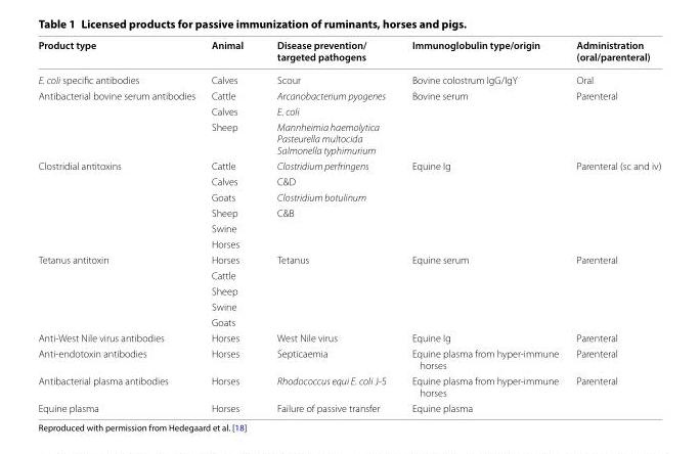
<table><thead><tr><td>Product type</td><td>Animal</td><td>Disease prevention/ targeted pathogens</td><td>Immunoglobulin type/origin</td><td>Administration (oral/parenteral)</td></tr></thead><tbody><tr><td>E. coli specific antibodies</td><td>Calves</td><td>Scour</td><td>Bovine colostrum IgG/IgY</td><td>Oral</td></tr><tr><td rowspan="3">Antibacterial bovine serum antibodies</td><td>Cattle</td><td>Arcanobacterium pyogenes</td><td>Bovine serum</td><td>Parenteral</td></tr><tr><td>Calves</td><td>E. coli</td><td></td><td></td></tr><tr><td>Sheep</td><td>Mannheimia haemolytica Pasteurella multocida Salmonella typhimurium</td><td></td><td></td></tr><tr><td rowspan="6">Clostridial antitoxins</td><td>Cattle</td><td>Clostridium perfringens</td><td>Equine Ig</td><td>Parenteral (sc and iv)</td></tr><tr><td>Calves</td><td>C&amp;D</td><td></td><td></td></tr><tr><td>Goats</td><td>Clostridium botulinum</td><td></td><td></td></tr><tr><td>Sheep</td><td>C&amp;B</td><td></td><td></td></tr><tr><td>Swine</td><td></td><td></td><td></td></tr><tr><td>Horses</td><td></td><td></td><td></td></tr><tr><td rowspan="5">Tetanus antitoxin</td><td>Horses</td><td>Tetanus</td><td>Equine serum</td><td>Parenteral</td></tr><tr><td>Cattle</td><td></td><td></td><td></td></tr><tr><td>Sheep</td><td></td><td></td><td></td></tr><tr><td>Swine</td><td></td><td></td><td></td></tr><tr><td>Goats</td><td></td><td></td><td></td></tr><tr><td>Anti-West Nile virus antibodies</td><td>Horses</td><td>West Nile virus</td><td>Equine Ig</td><td>Parenteral</td></tr><tr><td>Anti-endotoxin antibodies</td><td>Horses</td><td>Septicaemia</td><td>Equine plasma from hyper-immune horses</td><td>Parenteral</td></tr><tr><td>Antibacterial plasma antibodies</td><td>Horses</td><td>Rhodococcus equi E. coli J-5</td><td>Equine plasma from hyper-immune horses</td><td>Parenteral</td></tr><tr><td>Equine plasma</td><td>Horses</td><td>Failure of passive transfer</td><td>Equine plasma</td><td></td></tr></tbody></table>